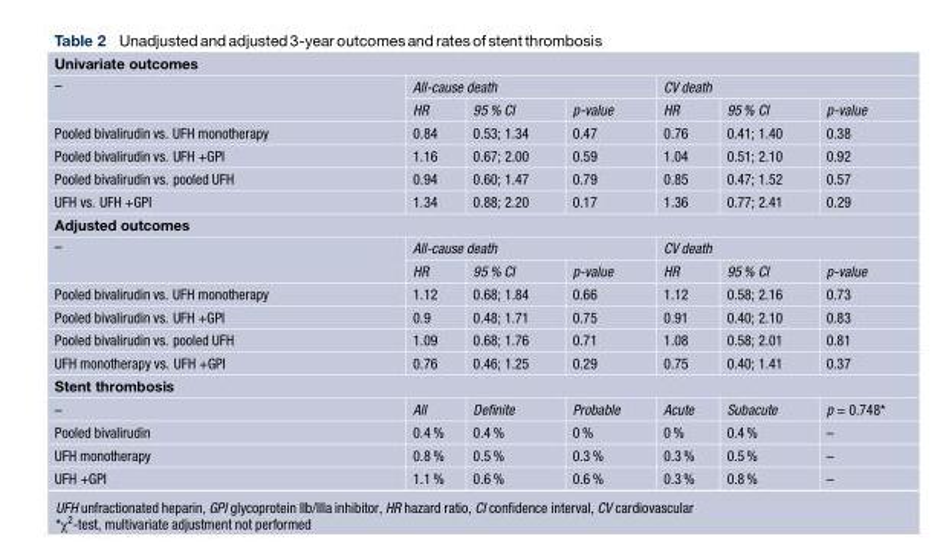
<table><tbody><tr><td colspan="7">Univariate outcomes</td></tr><tr><td rowspan="2">–</td><td colspan="3">All-cause death</td><td colspan="3">CV death</td></tr><tr><td>HR</td><td>95 % CI</td><td>p-value</td><td>HR</td><td>95 % CI</td><td>p-value</td></tr><tr><td>Pooled bivalirudin vs. UFH monotherapy</td><td>0.84</td><td>0.53; 1.34</td><td>0.47</td><td>0.76</td><td>0.41; 1.40</td><td>0.38</td></tr><tr><td>Pooled bivalirudin vs. UFH +GPI</td><td>1.16</td><td>0.67; 2.00</td><td>0.59</td><td>1.04</td><td>0.51; 2.10</td><td>0.92</td></tr><tr><td>Pooled bivalirudin vs. pooled UFH</td><td>0.94</td><td>0.60; 1.47</td><td>0.79</td><td>0.85</td><td>0.47; 1.52</td><td>0.57</td></tr><tr><td>UFH vs. UFH +GPI</td><td>1.34</td><td>0.88; 2.20</td><td>0.17</td><td>1.36</td><td>0.77; 2.41</td><td>0.29</td></tr><tr><td colspan="7">Adjusted outcomes</td></tr><tr><td rowspan="2">–</td><td colspan="3">All-cause death</td><td colspan="3">CV death</td></tr><tr><td>HR</td><td>95 % CI</td><td>p-value</td><td>HR</td><td>95 % CI</td><td>p-value</td></tr><tr><td>Pooled bivalirudin vs. UFH monotherapy</td><td>1.12</td><td>0.68; 1.84</td><td>0.66</td><td>1.12</td><td>0.58; 2.16</td><td>0.73</td></tr><tr><td>Pooled bivalirudin vs. UFH +GPI</td><td>0.9</td><td>0.48; 1.71</td><td>0.75</td><td>0.91</td><td>0.40; 2.10</td><td>0.83</td></tr><tr><td>Pooled bivalirudin vs. pooled UFH</td><td>1.09</td><td>0.68; 1.76</td><td>0.71</td><td>1.08</td><td>0.58; 2.01</td><td>0.81</td></tr><tr><td>UFH monotherapy vs. UFH +GPI</td><td>0.76</td><td>0.46; 1.25</td><td>0.29</td><td>0.75</td><td>0.40; 1.41</td><td>0.37</td></tr><tr><td colspan="7">Stent thrombosis</td></tr><tr><td>–</td><td>All</td><td>Definite</td><td>Probable</td><td>Acute</td><td>Subacute</td><td>p = 0.748*</td></tr><tr><td>Pooled bivalirudin</td><td>0.4 %</td><td>0.4 %</td><td>0 %</td><td>0 %</td><td>0.4 %</td><td>–</td></tr><tr><td>UFH monotherapy</td><td>0.8 %</td><td>0.5 %</td><td>0.3 %</td><td>0.3 %</td><td>0.5 %</td><td>–</td></tr><tr><td>UFH +GPI</td><td>1.1 %</td><td>0.6 %</td><td>0.6 %</td><td>0.3 %</td><td>0.8 %</td><td>–</td></tr></tbody></table>